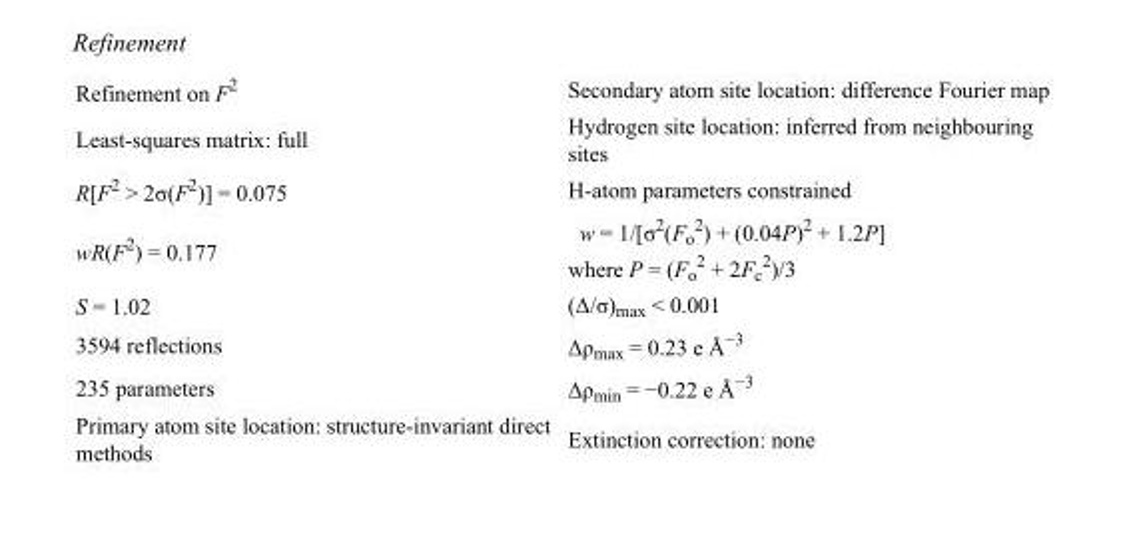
<table><tbody><tr><td>Refinement on F<sup>2</sup></td><td>Secondary atom site location: difference Fourier map</td></tr><tr><td>Least-squares matrix: full</td><td>Hydrogen site location: inferred from neighbouring sites</td></tr><tr><td>R[F<sup>2</sup> &gt; 2σ(F<sup>2</sup>)] = 0.075</td><td>H-atom parameters constrained</td></tr><tr><td>wR(F<sup>2</sup>) = 0.177</td><td>w = 1/[σ<sup>2</sup>(F<sub>o</sub> <sup>2</sup>) + (0.04P)<sup>2</sup> + 1.2P] where P = (F<sub>o</sub> <sup>2</sup> + 2F<sub>c</sub> <sup>2</sup>)/3</td></tr><tr><td>S = 1.02</td><td>(Δ/σ)<sub>max</sub> &lt; 0.001</td></tr><tr><td>3594 reflections</td><td>Δρ<sub>max</sub> = 0.23 e Å<sup>−3</sup></td></tr><tr><td>235 parameters</td><td>Δρ<sub>min</sub> = −0.22 e Å<sup>−3</sup></td></tr><tr><td>Primary atom site location: structure-invariant direct methods</td><td>Extinction correction: none</td></tr></tbody></table>